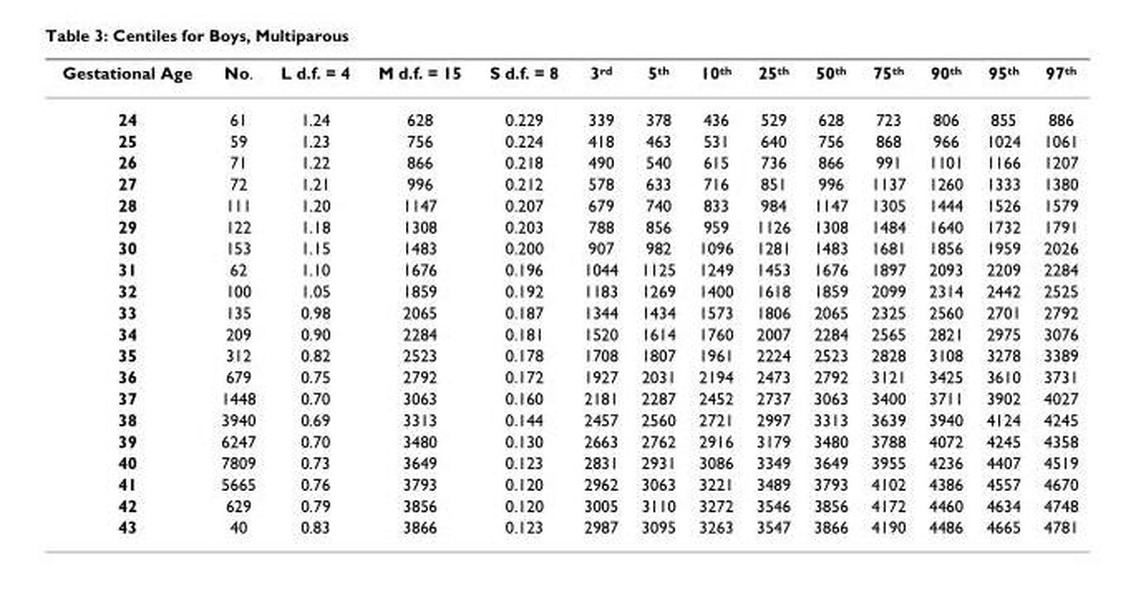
<table><thead><tr><td>Gestational Age</td><td>No.</td><td>L d.f. = 4</td><td>M d.f. = 15</td><td>S d.f. = 8</td><td>3<sup>rd</sup></td><td>5<sup>th</sup></td><td>10<sup>th</sup></td><td>25<sup>th</sup></td><td>50<sup>th</sup></td><td>75<sup>th</sup></td><td>90<sup>th</sup></td><td>95<sup>th</sup></td><td>97<sup>th</sup></td></tr></thead><tbody><tr><td>24</td><td>61</td><td>1.24</td><td>628</td><td>0.229</td><td>339</td><td>378</td><td>436</td><td>529</td><td>628</td><td>723</td><td>806</td><td>855</td><td>886</td></tr><tr><td>25</td><td>59</td><td>1.23</td><td>756</td><td>0.224</td><td>418</td><td>463</td><td>531</td><td>640</td><td>756</td><td>868</td><td>966</td><td>1024</td><td>1061</td></tr><tr><td>26</td><td>71</td><td>1.22</td><td>866</td><td>0.218</td><td>490</td><td>540</td><td>615</td><td>736</td><td>866</td><td>991</td><td>1101</td><td>1166</td><td>1207</td></tr><tr><td>27</td><td>72</td><td>1.21</td><td>996</td><td>0.212</td><td>578</td><td>633</td><td>716</td><td>851</td><td>996</td><td>1137</td><td>1260</td><td>1333</td><td>1380</td></tr><tr><td>28</td><td>111</td><td>1.20</td><td>1147</td><td>0.207</td><td>679</td><td>740</td><td>833</td><td>984</td><td>1147</td><td>1305</td><td>1444</td><td>1526</td><td>1579</td></tr><tr><td>29</td><td>122</td><td>1.18</td><td>1308</td><td>0.203</td><td>788</td><td>856</td><td>959</td><td>1126</td><td>1308</td><td>1484</td><td>1640</td><td>1732</td><td>1791</td></tr><tr><td>30</td><td>153</td><td>1.15</td><td>1483</td><td>0.200</td><td>907</td><td>982</td><td>1096</td><td>1281</td><td>1483</td><td>1681</td><td>1856</td><td>1959</td><td>2026</td></tr><tr><td>31</td><td>62</td><td>1.10</td><td>1676</td><td>0.196</td><td>1044</td><td>1125</td><td>1249</td><td>1453</td><td>1676</td><td>1897</td><td>2093</td><td>2209</td><td>2284</td></tr><tr><td>32</td><td>100</td><td>1.05</td><td>1859</td><td>0.192</td><td>1183</td><td>1269</td><td>1400</td><td>1618</td><td>1859</td><td>2099</td><td>2314</td><td>2442</td><td>2525</td></tr><tr><td>33</td><td>135</td><td>0.98</td><td>2065</td><td>0.187</td><td>1344</td><td>1434</td><td>1573</td><td>1806</td><td>2065</td><td>2325</td><td>2560</td><td>2701</td><td>2792</td></tr><tr><td>34</td><td>209</td><td>0.90</td><td>2284</td><td>0.181</td><td>1520</td><td>1614</td><td>1760</td><td>2007</td><td>2284</td><td>2565</td><td>2821</td><td>2975</td><td>3076</td></tr><tr><td>35</td><td>312</td><td>0.82</td><td>2523</td><td>0.178</td><td>1708</td><td>1807</td><td>1961</td><td>2224</td><td>2523</td><td>2828</td><td>3108</td><td>3278</td><td>3389</td></tr><tr><td>36</td><td>679</td><td>0.75</td><td>2792</td><td>0.172</td><td>1927</td><td>2031</td><td>2194</td><td>2473</td><td>2792</td><td>3121</td><td>3425</td><td>3610</td><td>3731</td></tr><tr><td>37</td><td>1448</td><td>0.70</td><td>3063</td><td>0.160</td><td>2181</td><td>2287</td><td>2452</td><td>2737</td><td>3063</td><td>3400</td><td>3711</td><td>3902</td><td>4027</td></tr><tr><td>38</td><td>3940</td><td>0.69</td><td>3313</td><td>0.144</td><td>2457</td><td>2560</td><td>2721</td><td>2997</td><td>3313</td><td>3639</td><td>3940</td><td>4124</td><td>4245</td></tr><tr><td>39</td><td>6247</td><td>0.70</td><td>3480</td><td>0.130</td><td>2663</td><td>2762</td><td>2916</td><td>3179</td><td>3480</td><td>3788</td><td>4072</td><td>4245</td><td>4358</td></tr><tr><td>40</td><td>7809</td><td>0.73</td><td>3649</td><td>0.123</td><td>2831</td><td>2931</td><td>3086</td><td>3349</td><td>3649</td><td>3955</td><td>4236</td><td>4407</td><td>4519</td></tr><tr><td>41</td><td>5665</td><td>0.76</td><td>3793</td><td>0.120</td><td>2962</td><td>3063</td><td>3221</td><td>3489</td><td>3793</td><td>4102</td><td>4386</td><td>4557</td><td>4670</td></tr><tr><td>42</td><td>629</td><td>0.79</td><td>3856</td><td>0.120</td><td>3005</td><td>3110</td><td>3272</td><td>3546</td><td>3856</td><td>4172</td><td>4460</td><td>4634</td><td>4748</td></tr><tr><td>43</td><td>40</td><td>0.83</td><td>3866</td><td>0.123</td><td>2987</td><td>3095</td><td>3263</td><td>3547</td><td>3866</td><td>4190</td><td>4486</td><td>4665</td><td>4781</td></tr></tbody></table>